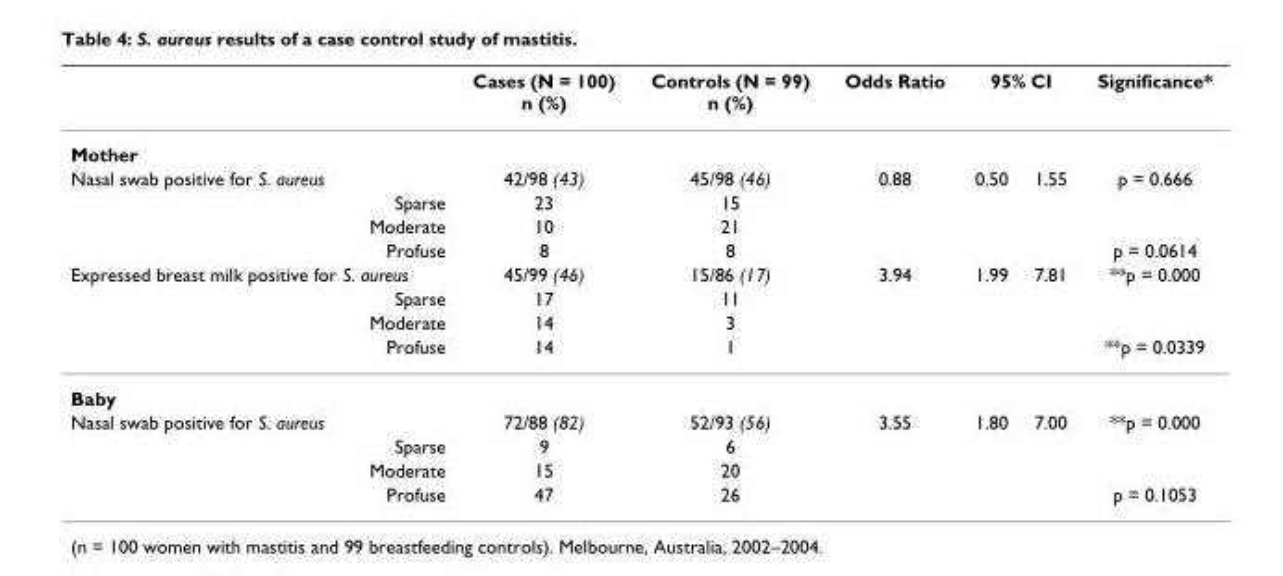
<table><thead><tr><td rowspan="2">Mother</td><td rowspan="2">Cases (N = 100) n (%)</td><td rowspan="2">Controls (N = 99) n (%)</td><td rowspan="2">Odds Ratio</td><td colspan="2">95% CI</td><td rowspan="2">Significance*</td></tr><tr><td></td><td></td></tr></thead><tbody><tr><td>Nasal swab positive for S. aureus</td><td>42/98 (43)</td><td>45/98 (46)</td><td>0.88</td><td>0.50</td><td>1.55</td><td>p = 0.666</td></tr><tr><td>Sparse</td><td>23</td><td>15</td><td></td><td></td><td></td><td></td></tr><tr><td>Moderate</td><td>10</td><td>21</td><td></td><td></td><td></td><td></td></tr><tr><td>Profuse</td><td>8</td><td>8</td><td></td><td></td><td></td><td>p = 0.0614</td></tr><tr><td>Expressed breast milk positive for S. aureus</td><td>45/99 (46)</td><td>15/86 (17)</td><td>3.94</td><td>1.99</td><td>7.81</td><td>**p = 0.000</td></tr><tr><td>Sparse</td><td>17</td><td>11</td><td></td><td></td><td></td><td></td></tr><tr><td>Moderate</td><td>14</td><td>3</td><td></td><td></td><td></td><td></td></tr><tr><td>Profuse</td><td>14</td><td>1</td><td></td><td></td><td></td><td>**p = 0.0339</td></tr><tr><td colspan="7">Baby</td></tr><tr><td>Nasal swab positive for S. aureus</td><td>72/88 (82)</td><td>52/93 (56)</td><td>3.55</td><td>1.80</td><td>7.00</td><td>**p = 0.000</td></tr><tr><td>Sparse</td><td>9</td><td>6</td><td></td><td></td><td></td><td></td></tr><tr><td>Moderate</td><td>15</td><td>20</td><td></td><td></td><td></td><td></td></tr><tr><td>Profuse</td><td>47</td><td>26</td><td></td><td></td><td></td><td>p = 0.1053</td></tr></tbody></table>